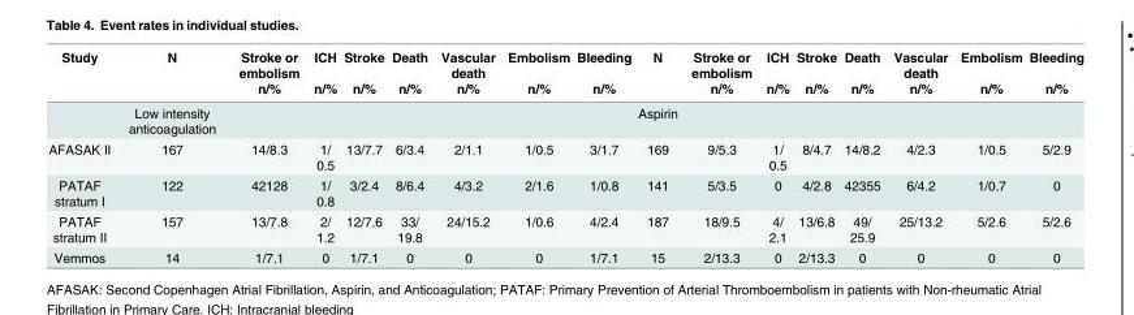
<table><thead><tr><td rowspan="2">Study</td><td rowspan="2">N</td><td rowspan="2">Stroke or embolism n/%</td><td rowspan="2">ICH n/%</td><td rowspan="2">Stroke n/%</td><td rowspan="2">Death n/%</td><td rowspan="2">Vascular death n/%</td><td rowspan="2">Embolism n/%</td><td rowspan="2">Bleeding n/%</td><td rowspan="2">N</td><td rowspan="2">Stroke or embolism n/%</td><td rowspan="2">ICH n/%</td><td rowspan="2">Stroke n/%</td><td rowspan="2">Death n/%</td><td rowspan="2">Vascular death n/%</td><td rowspan="2">Embolism n/%</td><td rowspan="2">Bleeding n/%</td></tr><tr></tr></thead><tbody><tr><td></td><td>Low intensity anticoagulation</td><td></td><td></td><td></td><td></td><td></td><td></td><td></td><td>Aspirin</td><td></td><td></td><td></td><td></td><td></td><td></td><td></td></tr><tr><td>AFASAK II</td><td>167</td><td>14/8.3</td><td>1/ 0.5</td><td>13/7.7</td><td>6/3.4</td><td>2/1.1</td><td>1/0.5</td><td>3/1.7</td><td>169</td><td>9/5.3</td><td>1/ 0.5</td><td>8/4.7</td><td>14/8.2</td><td>4/2.3</td><td>1/0.5</td><td>5/2.9</td></tr><tr><td>PATAF stratum I</td><td>122</td><td>42128</td><td>1/ 0.8</td><td>3/2.4</td><td>8/6.4</td><td>4/3.2</td><td>2/1.6</td><td>1/0.8</td><td>141</td><td>5/3.5</td><td>0</td><td>4/2.8</td><td>42355</td><td>6/4.2</td><td>1/0.7</td><td>0</td></tr><tr><td>PATAF stratum II</td><td>157</td><td>13/7.8</td><td>2/ 1.2</td><td>12/7.6</td><td>33/ 19.8</td><td>24/15.2</td><td>1/0.6</td><td>4/2.4</td><td>187</td><td>18/9.5</td><td>4/ 2.1</td><td>13/6.8</td><td>49/ 25.9</td><td>25/13.2</td><td>5/2.6</td><td>5/2.6</td></tr><tr><td>Vemmos</td><td>14</td><td>1/7.1</td><td>0</td><td>1/7.1</td><td>0</td><td>0</td><td>0</td><td>1/7.1</td><td>15</td><td>2/13.3</td><td>0</td><td>2/13.3</td><td>0</td><td>0</td><td>0</td><td>0</td></tr></tbody></table>